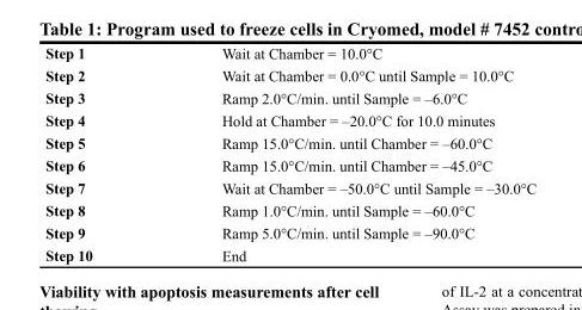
<table><tbody><tr><td>Step 1</td><td>Wait at Chamber = 10.0°C</td></tr><tr><td>Step 2</td><td>Wait at Chamber = 0.0°C until Sample = 10.0°C</td></tr><tr><td>Step 3</td><td>Ramp 2.0°C/min. until Sample = –6.0°C</td></tr><tr><td>Step 4</td><td>Hold at Chamber = –20.0°C for 10.0 minutes</td></tr><tr><td>Step 5</td><td>Ramp 15.0°C/min. until Chamber = –60.0°C</td></tr><tr><td>Step 6</td><td>Ramp 15.0°C/min. until Chamber = –45.0°C</td></tr><tr><td>Step 7</td><td>Wait at Chamber = –50.0°C until Sample = –30.0°C</td></tr><tr><td>Step 8</td><td>Ramp 1.0°C/min. until Sample = –60.0°C</td></tr><tr><td>Step 9</td><td>Ramp 5.0°C/min. until Sample = –90.0°C</td></tr><tr><td>Step 10</td><td>End</td></tr></tbody></table>